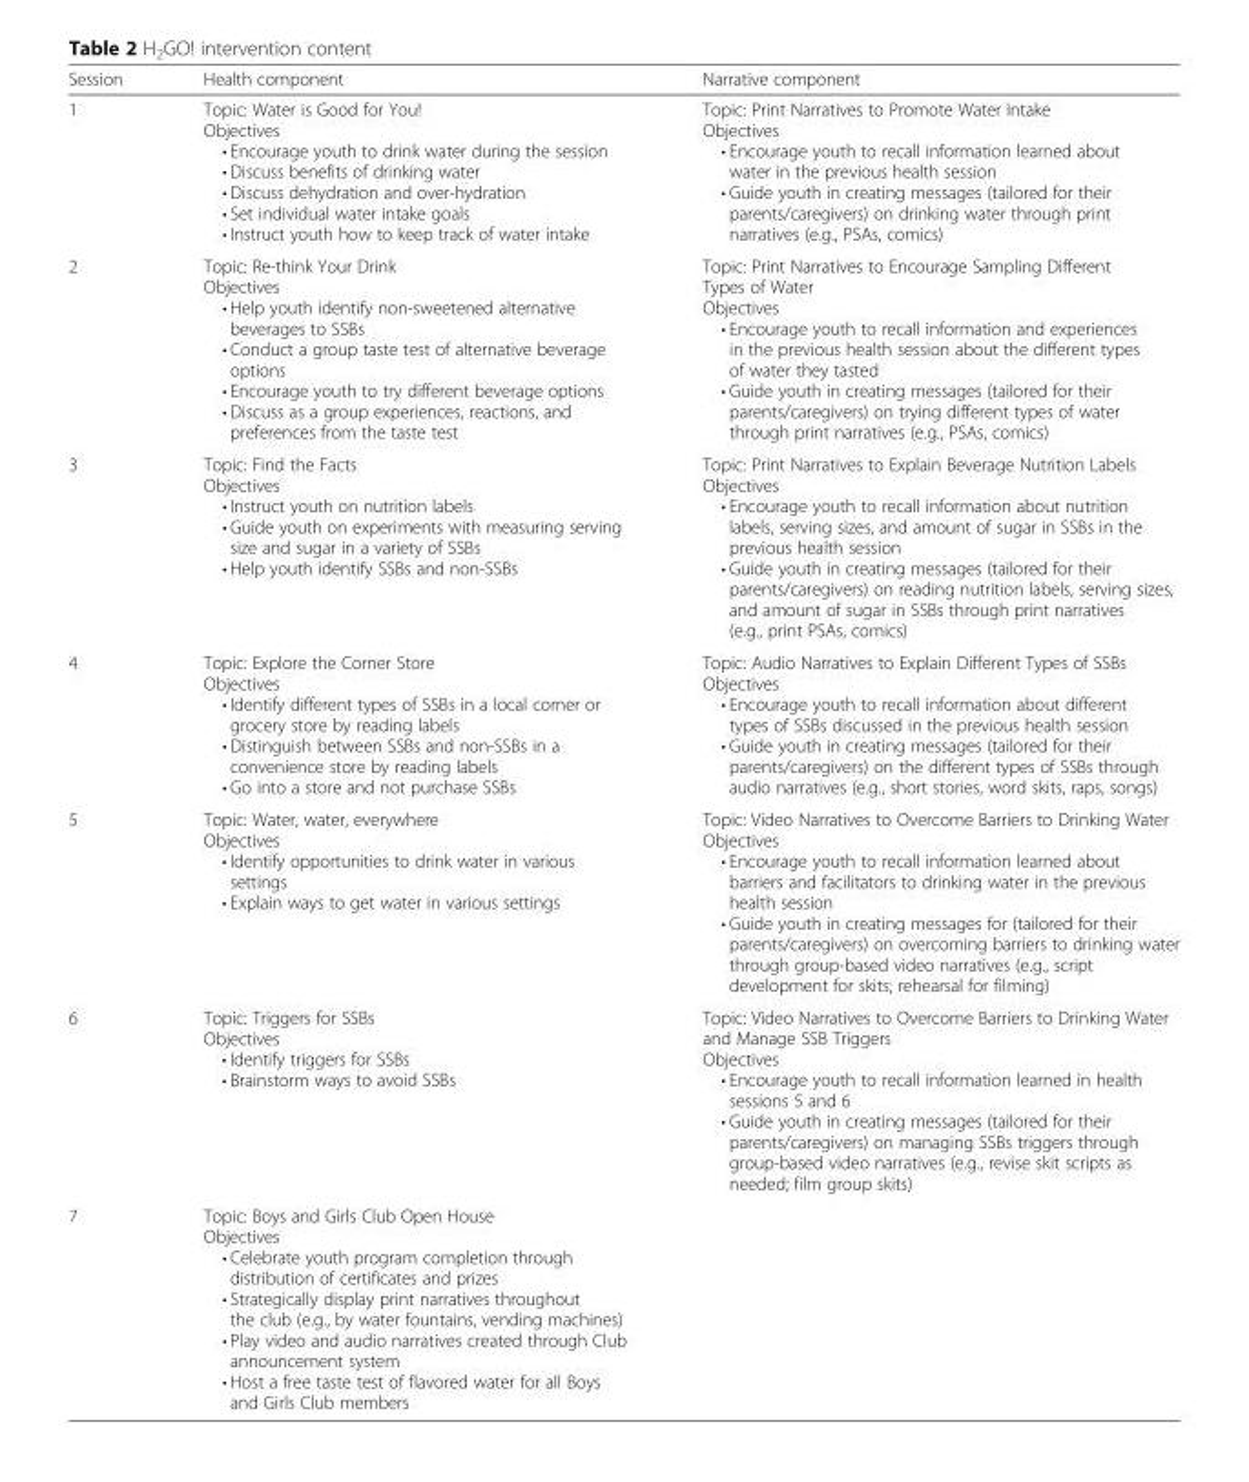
<table><thead><tr><td>Session</td><td>Health component</td><td>Narrative component</td></tr></thead><tbody><tr><td>1</td><td>Topic: Water is Good for You! Objectives • Encourage youth to drink water during the session • Discuss benefits of drinking water • Discuss dehydration and over-hydration • Set individual water intake goals • Instruct youth how to keep track of water intake</td><td>Topic: Print Narratives to Promote Water Intake Objectives • Encourage youth to recall information learned about water in the previous health session • Guide youth in creating messages (tailored for their parents/caregivers) on drinking water through print narratives (e.g., PSAs, comics)</td></tr><tr><td>2</td><td>Topic: Re-think Your Drink Objectives • Help youth identify non-sweetened alternative beverages to SSBs • Conduct a group taste test of alternative beverage options • Encourage youth to try different beverage options • Discuss as a group experiences, reactions, and preferences from the taste test</td><td>Topic: Print Narratives to Encourage Sampling Different Types of Water Objectives • Encourage youth to recall information and experiences in the previous health session about the different types of water they tasted • Guide youth in creating messages (tailored for their parents/caregivers) on trying different types of water through print narratives (e.g., PSAs, comics)</td></tr><tr><td>3</td><td>Topic: Find the Facts Objectives • Instruct youth on nutrition labels • Guide youth on experiments with measuring serving size and sugar in a variety of SSBs • Help youth identify SSBs and non-SSBs</td><td>Topic: Print Narratives to Explain Beverage Nutrition Labels Objectives • Encourage youth to recall information about nutrition labels, serving sizes, and amount of sugar in SSBs in the previous health session • Guide youth in creating messages (tailored for their parents/caregivers) on reading nutrition labels, serving sizes, and amount of sugar in SSBs through print narratives (e.g., print PSAs, comics)</td></tr><tr><td>4</td><td>Topic: Explore the Corner Store Objectives • Identify different types of SSBs in a local corner or grocery store by reading labels • Distinguish between SSBs and non-SSBs in a convenience store by reading labels • Go into a store and not purchase SSBs</td><td>Topic: Audio Narratives to Explain Different Types of SSBs Objectives • Encourage youth to recall information about different types of SSBs discussed in the previous health session • Guide youth in creating messages (tailored for their parents/caregivers) on the different types of SSBs through audio narratives (e.g., short stories, word skits, raps, songs)</td></tr><tr><td>5</td><td>Topic: Water, water, everywhere Objectives • Identify opportunities to drink water in various settings • Explain ways to get water in various settings</td><td>Topic: Video Narratives to Overcome Barriers to Drinking Water Objectives • Encourage youth to recall information learned about barriers and facilitators to drinking water in the previous health session • Guide youth in creating messages for (tailored for their parents/caregivers) on overcoming barriers to drinking water through group-based video narratives (e.g., script development for skits; rehearsal for filming)</td></tr><tr><td>6</td><td>Topic: Triggers for SSBs Objectives • Identify triggers for SSBs • Brainstorm ways to avoid SSBs</td><td>Topic: Video Narratives to Overcome Barriers to Drinking Water and Manage SSB Triggers Objectives • Encourage youth to recall information learned in health sessions 5 and 6 • Guide youth in creating messages (tailored for their parents/caregivers) on managing SSBs triggers through group-based video narratives (e.g., revise skit scripts as needed; film group skits)</td></tr><tr><td>7</td><td colspan="2">Topic: Boys and Girls Club Open House Objectives • Celebrate youth program completion through distribution of certificates and prizes • Strategically display print narratives throughout the club (e.g., by water fountains, vending machines) • Play video and audio narratives created through Club announcement system • Host a free taste test of flavored water for all Boys and Girls Club members</td></tr></tbody></table>